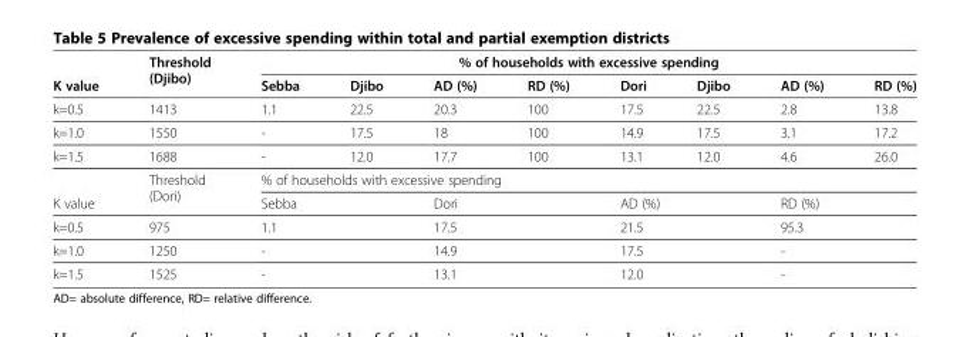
<table><thead><tr><td rowspan="2">K value</td><td rowspan="2">Threshold (Djibo)</td><td colspan="8">% of households with excessive spending</td></tr><tr><td>Sebba</td><td>Djibo</td><td>AD (%)</td><td>RD (%)</td><td>Dori</td><td>Djibo</td><td>AD (%)</td><td>RD (%)</td></tr></thead><tbody><tr><td>k=0.5</td><td>1413</td><td>1.1</td><td>22.5</td><td>20.3</td><td>100</td><td>17.5</td><td>22.5</td><td>2.8</td><td>13.8</td></tr><tr><td>k=1.0</td><td>1550</td><td>-</td><td>17.5</td><td>18</td><td>100</td><td>14.9</td><td>17.5</td><td>3.1</td><td>17.2</td></tr><tr><td rowspan="2">k=1.5</td><td>1688</td><td>-</td><td>12.0</td><td>17.7</td><td>100</td><td>13.1</td><td>12.0</td><td>4.6</td><td>26.0</td></tr><tr><td rowspan="2">Threshold (Dori)</td><td colspan="8">% of households with excessive spending</td></tr><tr><td>K value</td><td colspan="2">Sebba</td><td colspan="2">Dori</td><td colspan="2">AD (%)</td><td colspan="2">RD (%)</td></tr><tr><td>k=0.5</td><td>975</td><td colspan="2">1.1</td><td colspan="2">17.5</td><td colspan="2">21.5</td><td colspan="2">95.3</td></tr><tr><td>k=1.0</td><td>1250</td><td colspan="2">-</td><td colspan="2">14.9</td><td colspan="2">17.5</td><td colspan="2">-</td></tr><tr><td>k=1.5</td><td>1525</td><td colspan="2">-</td><td colspan="2">13.1</td><td colspan="2">12.0</td><td colspan="2">-</td></tr></tbody></table>